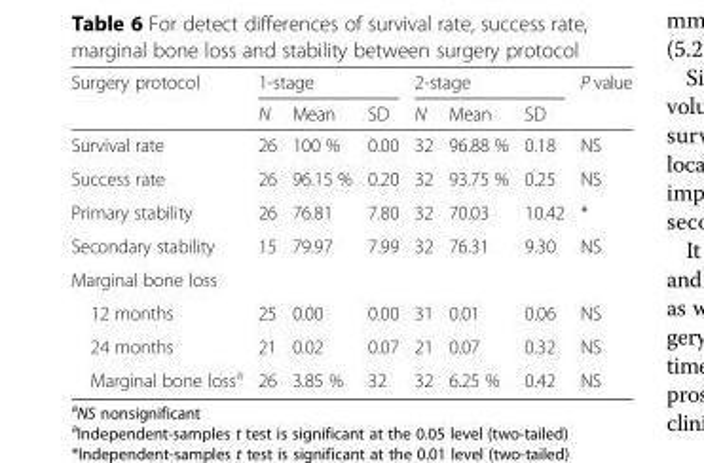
<table><thead><tr><td rowspan="2">Surgery protocol</td><td colspan="3">1-stage</td><td colspan="3">2-stage</td><td rowspan="2">P value</td></tr><tr><td>N</td><td>Mean</td><td>SD</td><td>N</td><td>Mean</td><td>SD</td></tr></thead><tbody><tr><td>Survival rate</td><td>26</td><td>100 %</td><td>0.00</td><td>32</td><td>96.88 %</td><td>0.18</td><td>NS</td></tr><tr><td>Success rate</td><td>26</td><td>96.15 %</td><td>0.20</td><td>32</td><td>93.75 %</td><td>0.25</td><td>NS</td></tr><tr><td>Primary stability</td><td>26</td><td>76.81</td><td>7.80</td><td>32</td><td>70.03</td><td>10.42</td><td>*</td></tr><tr><td>Secondary stability</td><td>15</td><td>79.97</td><td>7.99</td><td>32</td><td>76.31</td><td>9.30</td><td>NS</td></tr><tr><td colspan="8">Marginal bone loss</td></tr><tr><td>12 months</td><td>25</td><td>0.00</td><td>0.00</td><td>31</td><td>0.01</td><td>0.06</td><td>NS</td></tr><tr><td>24 months</td><td>21</td><td>0.02</td><td>0.07</td><td>21</td><td>0.07</td><td>0.32</td><td>NS</td></tr><tr><td>Marginal bone loss<sup>a</sup></td><td>26</td><td>3.85 %</td><td>32</td><td>32</td><td>6.25 %</td><td>0.42</td><td>NS</td></tr></tbody></table>